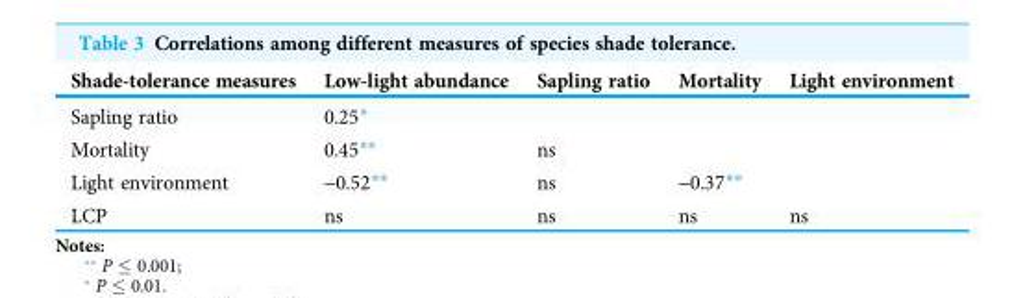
<table><thead><tr><td>Shade-tolerance measures</td><td>Low-light abundance</td><td>Sapling ratio</td><td>Mortality</td><td>Light environment</td></tr></thead><tbody><tr><td>Sapling ratio</td><td>0.25*</td><td></td><td></td><td></td></tr><tr><td>Mortality</td><td>0.45**</td><td>ns</td><td></td><td></td></tr><tr><td>Light environment</td><td>-0.52**</td><td>ns</td><td>-0.37**</td><td></td></tr><tr><td>LCP</td><td>ns</td><td>ns</td><td>ns</td><td>ns</td></tr></tbody></table>